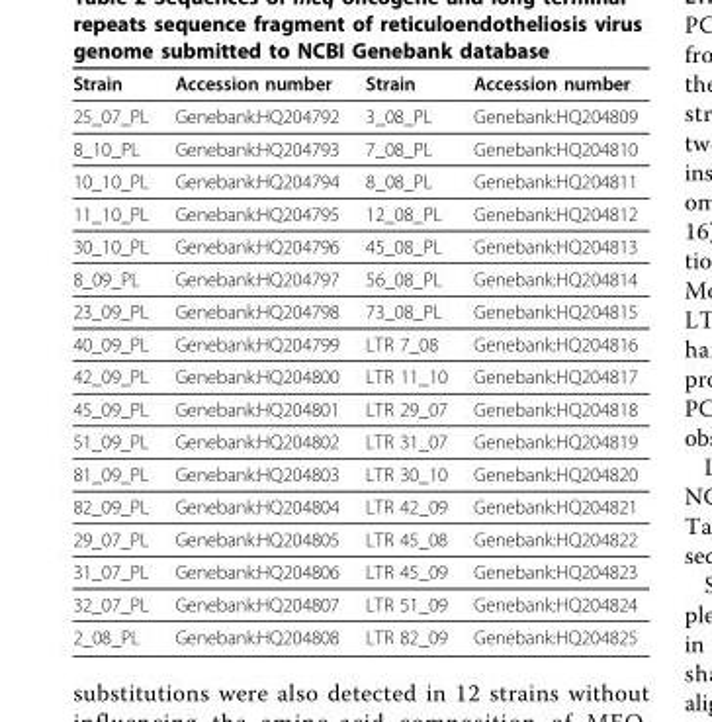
<table><thead><tr><td>Strain</td><td>Accession number</td><td>Strain</td><td>Accession number</td></tr></thead><tbody><tr><td>25_07_PL</td><td>Genebank:HQ204792</td><td>3_08_PL</td><td>Genebank:HQ204809</td></tr><tr><td>8_10_PL</td><td>Genebank:HQ204793</td><td>7_08_PL</td><td>Genebank:HQ204810</td></tr><tr><td>10_10_PL</td><td>Genebank:HQ204794</td><td>8_08_PL</td><td>Genebank:HQ204811</td></tr><tr><td>11_10_PL</td><td>Genebank:HQ204795</td><td>12_08_PL</td><td>Genebank:HQ204812</td></tr><tr><td>30_10_PL</td><td>Genebank:HQ204796</td><td>45_08_PL</td><td>Genebank:HQ204813</td></tr><tr><td>8_09_PL</td><td>Genebank:HQ204797</td><td>56_08_PL</td><td>Genebank:HQ204814</td></tr><tr><td>23_09_PL</td><td>Genebank:HQ204798</td><td>73_08_PL</td><td>Genebank:HQ204815</td></tr><tr><td>40_09_PL</td><td>Genebank:HQ204799</td><td>LTR 7_08</td><td>Genebank:HQ204816</td></tr><tr><td>42_09_PL</td><td>Genebank:HQ204800</td><td>LTR 11_10</td><td>Genebank:HQ204817</td></tr><tr><td>45_09_PL</td><td>Genebank:HQ204801</td><td>LTR 29_07</td><td>Genebank:HQ204818</td></tr><tr><td>51_09_PL</td><td>Genebank:HQ204802</td><td>LTR 31_07</td><td>Genebank:HQ204819</td></tr><tr><td>81_09_PL</td><td>Genebank:HQ204803</td><td>LTR 30_10</td><td>Genebank:HQ204820</td></tr><tr><td>82_09_PL</td><td>Genebank:HQ204804</td><td>LTR 42_09</td><td>Genebank:HQ204821</td></tr><tr><td>29_07_PL</td><td>Genebank:HQ204805</td><td>LTR 45_08</td><td>Genebank:HQ204822</td></tr><tr><td>31_07_PL</td><td>Genebank:HQ204806</td><td>LTR 45_09</td><td>Genebank:HQ204823</td></tr><tr><td>32_07_PL</td><td>Genebank:HQ204807</td><td>LTR 51_09</td><td>Genebank:HQ204824</td></tr><tr><td>2_08_PL</td><td>Genebank:HQ204808</td><td>LTR 82_09</td><td>Genebank:HQ204825</td></tr></tbody></table>